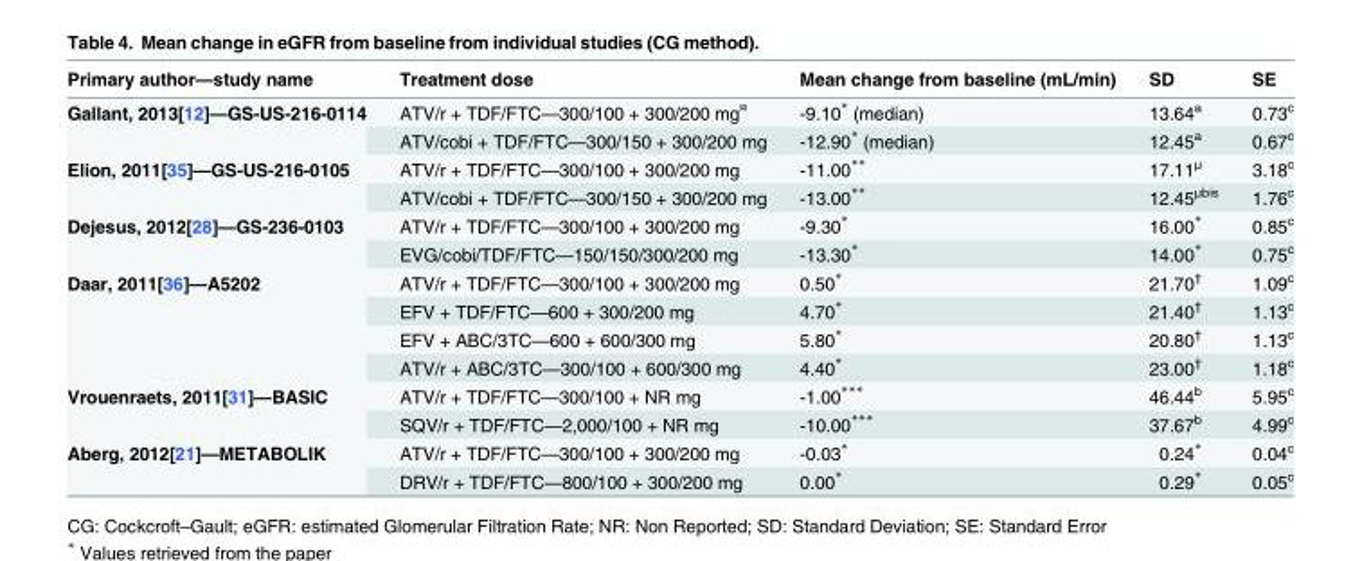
<table><thead><tr><td>Primary author—study name</td><td>Treatment dose</td><td>Mean change from baseline (mL/min)</td><td>SD</td><td>SE</td></tr></thead><tbody><tr><td rowspan="2">Gallant, 2013[12]—GS-US-216-0114</td><td>ATV/r + TDF/FTC—300/100 + 300/200 mg<sup>¤</sup></td><td>-9.10* (median)</td><td>13.64<sup>a</sup></td><td>0.73<sup>c</sup></td></tr><tr><td>ATV/cobi + TDF/FTC—300/150 + 300/200 mg</td><td>-12.90* (median)</td><td>12.45<sup>a</sup></td><td>0.67<sup>c</sup></td></tr><tr><td rowspan="2">Elion, 2011[35]—GS-US-216-0105</td><td>ATV/r + TDF/FTC—300/100 + 300/200 mg</td><td>-11.00**</td><td>17.11<sup>μ</sup></td><td>3.18<sup>c</sup></td></tr><tr><td>ATV/cobi + TDF/FTC—300/150 + 300/200 mg</td><td>-13.00**</td><td>12.45<sup>μbis</sup></td><td>1.76<sup>c</sup></td></tr><tr><td rowspan="2">Dejesus, 2012[28]—GS-236-0103</td><td>ATV/r + TDF/FTC—300/100 + 300/200 mg</td><td>-9.30*</td><td>16.00*</td><td>0.85<sup>c</sup></td></tr><tr><td>EVG/cobi/TDF/FTC—150/150/300/200 mg</td><td>-13.30*</td><td>14.00*</td><td>0.75<sup>c</sup></td></tr><tr><td rowspan="4">Daar, 2011[36]—A5202</td><td>ATV/r + TDF/FTC—300/100 + 300/200 mg</td><td>0.50*</td><td>21.70<sup>†</sup></td><td>1.09<sup>c</sup></td></tr><tr><td>EFV + TDF/FTC—600 + 300/200 mg</td><td>4.70*</td><td>21.40<sup>†</sup></td><td>1.13<sup>c</sup></td></tr><tr><td>EFV + ABC/3TC—600 + 600/300 mg</td><td>5.80*</td><td>20.80<sup>†</sup></td><td>1.13<sup>c</sup></td></tr><tr><td>ATV/r + ABC/3TC—300/100 + 600/300 mg</td><td>4.40*</td><td>23.00<sup>†</sup></td><td>1.18<sup>c</sup></td></tr><tr><td rowspan="2">Vrouenraets, 2011[31]—BASIC</td><td>ATV/r + TDF/FTC—300/100 + NR mg</td><td>-1.00***</td><td>46.44<sup>b</sup></td><td>5.95<sup>c</sup></td></tr><tr><td>SQV/r + TDF/FTC—2,000/100 + NR mg</td><td>-10.00***</td><td>37.67<sup>b</sup></td><td>4.99<sup>c</sup></td></tr><tr><td rowspan="2">Aberg, 2012[21]—METABOLIK</td><td>ATV/r + TDF/FTC—300/100 + 300/200 mg</td><td>-0.03*</td><td>0.24*</td><td>0.04<sup>c</sup></td></tr><tr><td>DRV/r + TDF/FTC—800/100 + 300/200 mg</td><td>0.00*</td><td>0.29*</td><td>0.05<sup>c</sup></td></tr></tbody></table>